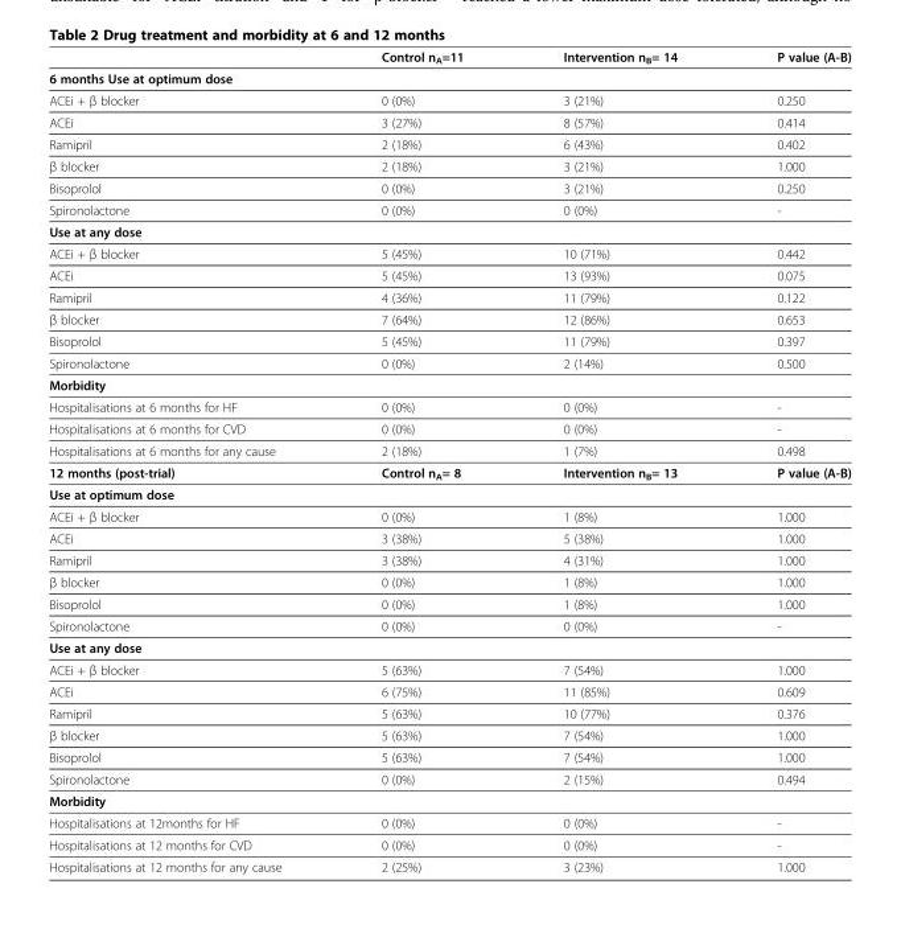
<table><thead><tr><td></td><td>Control n<sub>A</sub>=11</td><td>Intervention n<sub>B</sub>= 14</td><td>P value (A-B)</td></tr></thead><tbody><tr><td colspan="4">6 months Use at optimum dose</td></tr><tr><td>ACEi + β blocker</td><td>0 (0%)</td><td>3 (21%)</td><td>0.250</td></tr><tr><td>ACEi</td><td>3 (27%)</td><td>8 (57%)</td><td>0.414</td></tr><tr><td>Ramipril</td><td>2 (18%)</td><td>6 (43%)</td><td>0.402</td></tr><tr><td>β blocker</td><td>2 (18%)</td><td>3 (21%)</td><td>1.000</td></tr><tr><td>Bisoprolol</td><td>0 (0%)</td><td>3 (21%)</td><td>0.250</td></tr><tr><td>Spironolactone</td><td>0 (0%)</td><td>0 (0%)</td><td>-</td></tr><tr><td colspan="4">Use at any dose</td></tr><tr><td>ACEi + β blocker</td><td>5 (45%)</td><td>10 (71%)</td><td>0.442</td></tr><tr><td>ACEi</td><td>5 (45%)</td><td>13 (93%)</td><td>0.075</td></tr><tr><td>Ramipril</td><td>4 (36%)</td><td>11 (79%)</td><td>0.122</td></tr><tr><td>β blocker</td><td>7 (64%)</td><td>12 (86%)</td><td>0.653</td></tr><tr><td>Bisoprolol</td><td>5 (45%)</td><td>11 (79%)</td><td>0.397</td></tr><tr><td>Spironolactone</td><td>0 (0%)</td><td>2 (14%)</td><td>0.500</td></tr><tr><td colspan="4">Morbidity</td></tr><tr><td>Hospitalisations at 6 months for HF</td><td>0 (0%)</td><td>0 (0%)</td><td>-</td></tr><tr><td>Hospitalisations at 6 months for CVD</td><td>0 (0%)</td><td>0 (0%)</td><td>-</td></tr><tr><td>Hospitalisations at 6 months for any cause</td><td>2 (18%)</td><td>1 (7%)</td><td>0.498</td></tr><tr><td>12 months (post-trial)</td><td>Control n<sub>A</sub>= 8</td><td>Intervention n<sub>B</sub>= 13</td><td>P value (A-B)</td></tr><tr><td colspan="4">Use at optimum dose</td></tr><tr><td>ACEi + β blocker</td><td>0 (0%)</td><td>1 (8%)</td><td>1.000</td></tr><tr><td>ACEi</td><td>3 (38%)</td><td>5 (38%)</td><td>1.000</td></tr><tr><td>Ramipril</td><td>3 (38%)</td><td>4 (31%)</td><td>1.000</td></tr><tr><td>β blocker</td><td>0 (0%)</td><td>1 (8%)</td><td>1.000</td></tr><tr><td>Bisoprolol</td><td>0 (0%)</td><td>1 (8%)</td><td>1.000</td></tr><tr><td>Spironolactone</td><td>0 (0%)</td><td>0 (0%)</td><td>-</td></tr><tr><td colspan="4">Use at any dose</td></tr><tr><td>ACEi + β blocker</td><td>5 (63%)</td><td>7 (54%)</td><td>1.000</td></tr><tr><td>ACEi</td><td>6 (75%)</td><td>11 (85%)</td><td>0.609</td></tr><tr><td>Ramipril</td><td>5 (63%)</td><td>10 (77%)</td><td>0.376</td></tr><tr><td>β blocker</td><td>5 (63%)</td><td>7 (54%)</td><td>1.000</td></tr><tr><td>Bisoprolol</td><td>5 (63%)</td><td>7 (54%)</td><td>1.000</td></tr><tr><td>Spironolactone</td><td>0 (0%)</td><td>2 (15%)</td><td>0.494</td></tr><tr><td colspan="4">Morbidity</td></tr><tr><td>Hospitalisations at 12months for HF</td><td>0 (0%)</td><td>0 (0%)</td><td>-</td></tr><tr><td>Hospitalisations at 12 months for CVD</td><td>0 (0%)</td><td>0 (0%)</td><td>-</td></tr><tr><td>Hospitalisations at 12 months for any cause</td><td>2 (25%)</td><td>3 (23%)</td><td>1.000</td></tr></tbody></table>